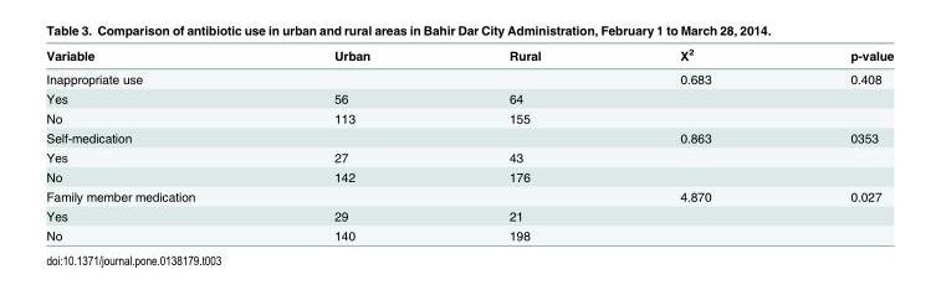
<table><thead><tr><td>Variable</td><td>Urban</td><td>Rural</td><td>X<sup>2</sup></td><td>p-value</td></tr></thead><tbody><tr><td>Inappropriate use</td><td></td><td></td><td>0.683</td><td>0.408</td></tr><tr><td>Yes</td><td>56</td><td>64</td><td></td><td></td></tr><tr><td>No</td><td>113</td><td>155</td><td></td><td></td></tr><tr><td>Self-medication</td><td></td><td></td><td>0.863</td><td>0353</td></tr><tr><td>Yes</td><td>27</td><td>43</td><td></td><td></td></tr><tr><td>No</td><td>142</td><td>176</td><td></td><td></td></tr><tr><td>Family member medication</td><td></td><td></td><td>4.870</td><td>0.027</td></tr><tr><td>Yes</td><td>29</td><td>21</td><td></td><td></td></tr><tr><td>No</td><td>140</td><td>198</td><td></td><td></td></tr></tbody></table>